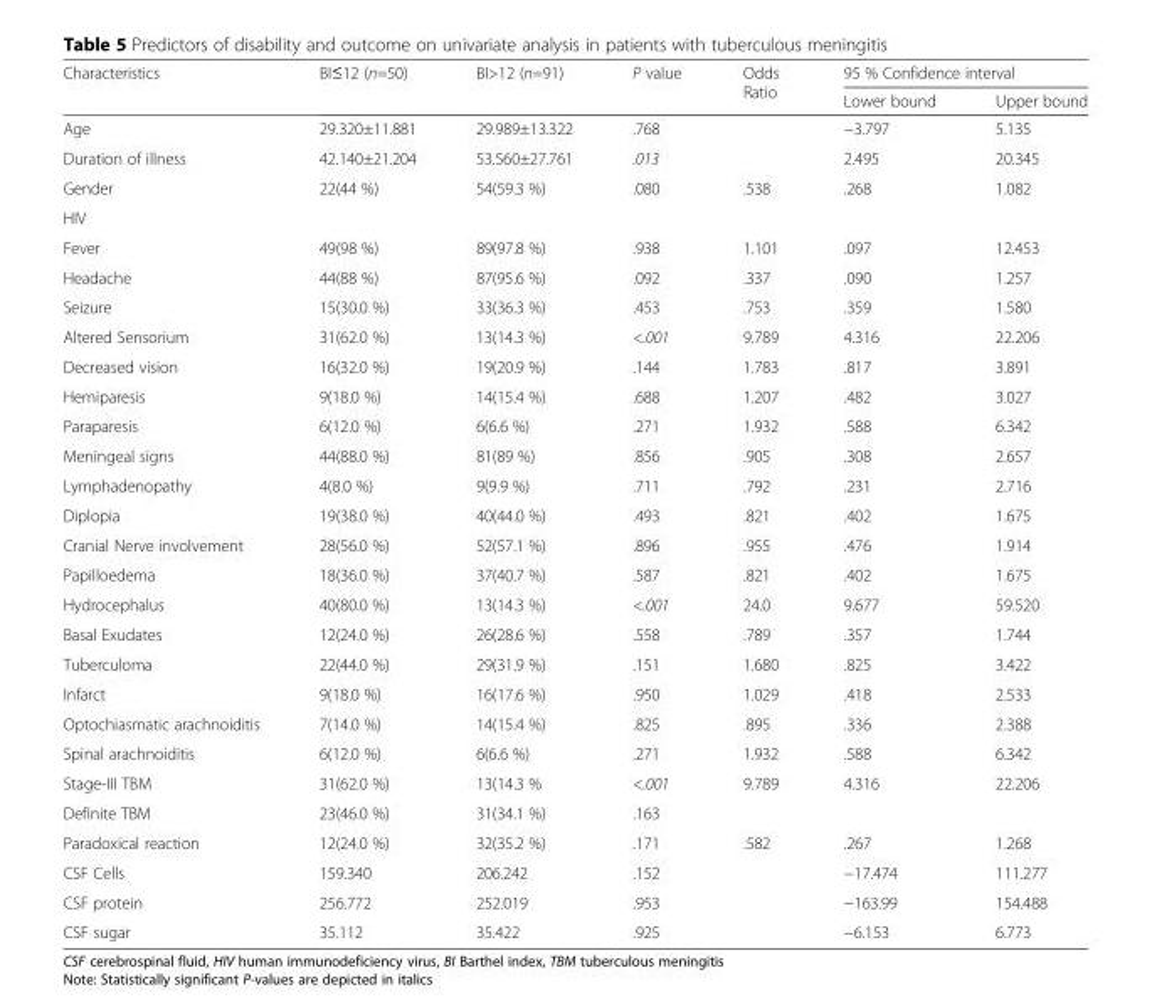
<table><thead><tr><td rowspan="2">Characteristics</td><td rowspan="2">BI≤12 (n=50)</td><td rowspan="2">BI&gt;12 (n=91)</td><td rowspan="2">P value</td><td rowspan="2">Odds Ratio</td><td colspan="2">95 % Confidence interval</td></tr><tr><td>Lower bound</td><td>Upper bound</td></tr></thead><tbody><tr><td>Age</td><td>29.320±11.881</td><td>29.989±13.322</td><td>.768</td><td></td><td>−3.797</td><td>5.135</td></tr><tr><td>Duration of illness</td><td>42.140±21.204</td><td>53.560±27.761</td><td>.013</td><td></td><td>2.495</td><td>20.345</td></tr><tr><td>Gender</td><td>22(44 %)</td><td>54(59.3 %)</td><td>.080</td><td>.538</td><td>.268</td><td>1.082</td></tr><tr><td colspan="7">HIV</td></tr><tr><td>Fever</td><td>49(98 %)</td><td>89(97.8 %)</td><td>.938</td><td>1.101</td><td>.097</td><td>12.453</td></tr><tr><td>Headache</td><td>44(88 %)</td><td>87(95.6 %)</td><td>.092</td><td>.337</td><td>.090</td><td>1.257</td></tr><tr><td>Seizure</td><td>15(30.0 %)</td><td>33(36.3 %)</td><td>.453</td><td>.753</td><td>.359</td><td>1.580</td></tr><tr><td>Altered Sensorium</td><td>31(62.0 %)</td><td>13(14.3 %)</td><td>&lt;.001</td><td>9.789</td><td>4.316</td><td>22.206</td></tr><tr><td>Decreased vision</td><td>16(32.0 %)</td><td>19(20.9 %)</td><td>.144</td><td>1.783</td><td>.817</td><td>3.891</td></tr><tr><td>Hemiparesis</td><td>9(18.0 %)</td><td>14(15.4 %)</td><td>.688</td><td>1.207</td><td>.482</td><td>3.027</td></tr><tr><td>Paraparesis</td><td>6(12.0 %)</td><td>6(6.6 %)</td><td>.271</td><td>1.932</td><td>.588</td><td>6.342</td></tr><tr><td>Meningeal signs</td><td>44(88.0 %)</td><td>81(89 %)</td><td>.856</td><td>.905</td><td>.308</td><td>2.657</td></tr><tr><td>Lymphadenopathy</td><td>4(8.0 %)</td><td>9(9.9 %)</td><td>.711</td><td>.792</td><td>.231</td><td>2.716</td></tr><tr><td>Diplopia</td><td>19(38.0 %)</td><td>40(44.0 %)</td><td>.493</td><td>.821</td><td>.402</td><td>1.675</td></tr><tr><td>Cranial Nerve involvement</td><td>28(56.0 %)</td><td>52(57.1 %)</td><td>.896</td><td>.955</td><td>.476</td><td>1.914</td></tr><tr><td>Papilloedema</td><td>18(36.0 %)</td><td>37(40.7 %)</td><td>.587</td><td>.821</td><td>.402</td><td>1.675</td></tr><tr><td>Hydrocephalus</td><td>40(80.0 %)</td><td>13(14.3 %)</td><td>&lt;.001</td><td>24.0</td><td>9.677</td><td>59.520</td></tr><tr><td>Basal Exudates</td><td>12(24.0 %)</td><td>26(28.6 %)</td><td>.558</td><td>.789</td><td>.357</td><td>1.744</td></tr><tr><td>Tuberculoma</td><td>22(44.0 %)</td><td>29(31.9 %)</td><td>.151</td><td>1.680</td><td>.825</td><td>3.422</td></tr><tr><td>Infarct</td><td>9(18.0 %)</td><td>16(17.6 %)</td><td>.950</td><td>1.029</td><td>.418</td><td>2.533</td></tr><tr><td>Optochiasmatic arachnoiditis</td><td>7(14.0 %)</td><td>14(15.4 %)</td><td>.825</td><td>.895</td><td>.336</td><td>2.388</td></tr><tr><td>Spinal arachnoiditis</td><td>6(12.0 %)</td><td>6(6.6 %)</td><td>.271</td><td>1.932</td><td>.588</td><td>6.342</td></tr><tr><td>Stage-III TBM</td><td>31(62.0 %)</td><td>13(14.3 %</td><td>&lt;.001</td><td>9.789</td><td>4.316</td><td>22.206</td></tr><tr><td>Definite TBM</td><td>23(46.0 %)</td><td>31(34.1 %)</td><td>.163</td><td></td><td></td><td></td></tr><tr><td>Paradoxical reaction</td><td>12(24.0 %)</td><td>32(35.2 %)</td><td>.171</td><td>.582</td><td>.267</td><td>1.268</td></tr><tr><td>CSF Cells</td><td>159.340</td><td>206.242</td><td>.152</td><td></td><td>−17.474</td><td>111.277</td></tr><tr><td>CSF protein</td><td>256.772</td><td>252.019</td><td>.953</td><td></td><td>−163.99</td><td>154.488</td></tr><tr><td>CSF sugar</td><td>35.112</td><td>35.422</td><td>.925</td><td></td><td>−6.153</td><td>6.773</td></tr></tbody></table>